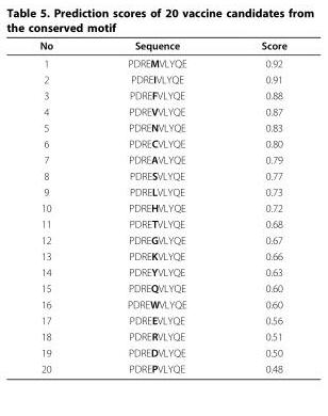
<table><thead><tr><td>No</td><td>Sequence</td><td>Score</td></tr></thead><tbody><tr><td>1</td><td>PDREMVLYQE</td><td>0.92</td></tr><tr><td>2</td><td>PDREIVLYQE</td><td>0.91</td></tr><tr><td>3</td><td>PDREFVLYQE</td><td>0.88</td></tr><tr><td>4</td><td>PDREVVLYQE</td><td>0.87</td></tr><tr><td>5</td><td>PDRENVLYQE</td><td>0.83</td></tr><tr><td>6</td><td>PDRECVLYQE</td><td>0.80</td></tr><tr><td>7</td><td>PDREAVLYQE</td><td>0.79</td></tr><tr><td>8</td><td>PDRESVLYQE</td><td>0.77</td></tr><tr><td>9</td><td>PDRELVLYQE</td><td>0.73</td></tr><tr><td>10</td><td>PDREHVLYQE</td><td>0.72</td></tr><tr><td>11</td><td>PDRETVLYQE</td><td>0.68</td></tr><tr><td>12</td><td>PDREGVLYQE</td><td>0.67</td></tr><tr><td>13</td><td>PDREKVLYQE</td><td>0.66</td></tr><tr><td>14</td><td>PDREYVLYQE</td><td>0.63</td></tr><tr><td>15</td><td>PDREQVLYQE</td><td>0.60</td></tr><tr><td>16</td><td>PDREWVLYQE</td><td>0.60</td></tr><tr><td>17</td><td>PDREEVLYQE</td><td>0.56</td></tr><tr><td>18</td><td>PDRERVLYQE</td><td>0.51</td></tr><tr><td>19</td><td>PDREDVLYQE</td><td>0.50</td></tr><tr><td>20</td><td>PDREPVLYQE</td><td>0.48</td></tr></tbody></table>